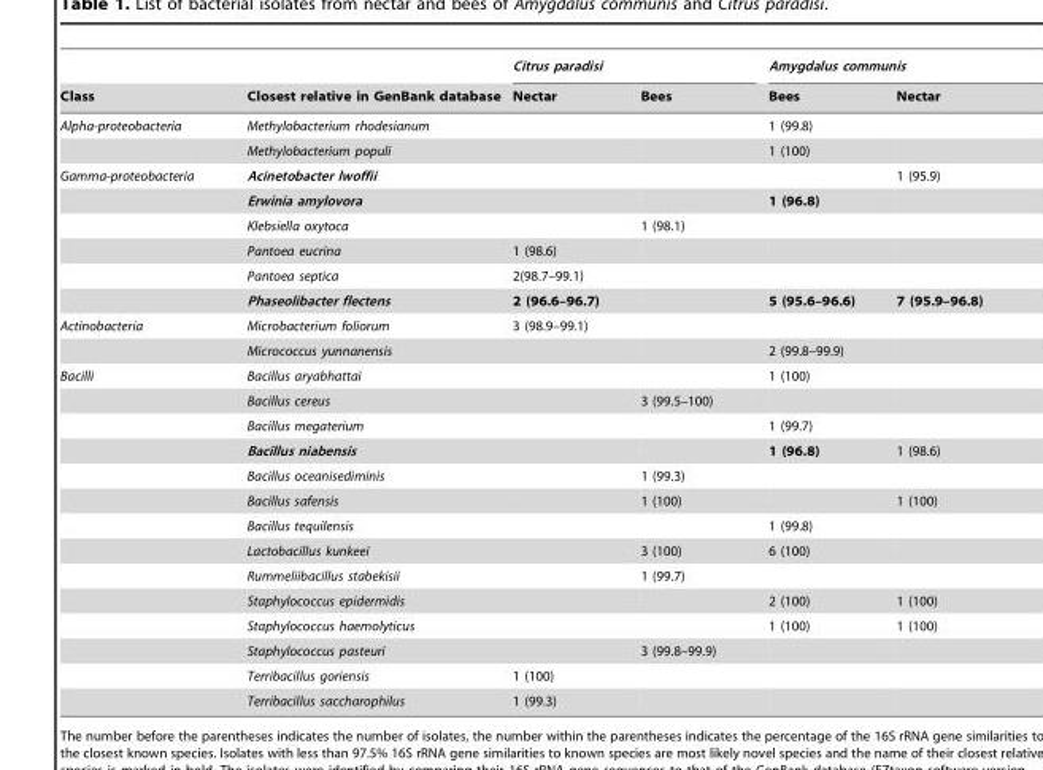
<table><thead><tr><td rowspan="2">Class</td><td rowspan="2">Closest relative in GenBank database</td><td colspan="2">Citrus paradisi</td><td colspan="2">Amygdalus communis</td></tr><tr><td>Nectar</td><td>Bees</td><td>Bees</td><td>Nectar</td></tr></thead><tbody><tr><td rowspan="2">Alpha-proteobacteria</td><td>Methylobacterium rhodesianum</td><td></td><td></td><td>1 (99.8)</td><td></td></tr><tr><td>Methylobacterium populi</td><td></td><td></td><td>1 (100)</td><td></td></tr><tr><td rowspan="6">Gamma-proteobacteria</td><td>Acinetobacter lwoffii</td><td></td><td></td><td></td><td>1 (95.9)</td></tr><tr><td>Erwinia amylovora</td><td></td><td></td><td>1 (96.8)</td><td></td></tr><tr><td>Klebsiella oxytoca</td><td></td><td>1 (98.1)</td><td></td><td></td></tr><tr><td>Pantoea eucrina</td><td>1 (98.6)</td><td></td><td></td><td></td></tr><tr><td>Pantoea septica</td><td>2(98.7–99.1)</td><td></td><td></td><td></td></tr><tr><td>Phaseolibacter flectens</td><td>2 (96.6–96.7)</td><td></td><td>5 (95.6–96.6)</td><td>7 (95.9–96.8)</td></tr><tr><td rowspan="2">Actinobacteria</td><td>Microbacterium foliorum</td><td>3 (98.9–99.1)</td><td></td><td></td><td></td></tr><tr><td>Micrococcus yunnanensis</td><td></td><td></td><td>2 (99.8–99.9)</td><td></td></tr><tr><td rowspan="14">Bacilli</td><td>Bacillus aryabhattai</td><td></td><td></td><td>1 (100)</td><td></td></tr><tr><td>Bacillus cereus</td><td></td><td>3 (99.5–100)</td><td></td><td></td></tr><tr><td>Bacillus megaterium</td><td></td><td></td><td>1 (99.7)</td><td></td></tr><tr><td>Bacillus niabensis</td><td></td><td></td><td>1 (96.8)</td><td>1 (98.6)</td></tr><tr><td>Bacillus oceanisediminis</td><td></td><td>1 (99.3)</td><td></td><td></td></tr><tr><td>Bacillus safensis</td><td></td><td>1 (100)</td><td></td><td>1 (100)</td></tr><tr><td>Bacillus tequilensis</td><td></td><td></td><td>1 (99.8)</td><td></td></tr><tr><td>Lactobacillus kunkeei</td><td></td><td>3 (100)</td><td>6 (100)</td><td></td></tr><tr><td>Rummeliibacillus stabekisii</td><td></td><td>1 (99.7)</td><td></td><td></td></tr><tr><td>Staphylococcus epidermidis</td><td></td><td></td><td>2 (100)</td><td>1 (100)</td></tr><tr><td>Staphylococcus haemolyticus</td><td></td><td></td><td>1 (100)</td><td>1 (100)</td></tr><tr><td>Staphylococcus pasteuri</td><td></td><td>3 (99.8–99.9)</td><td></td><td></td></tr><tr><td>Terribacillus goriensis</td><td>1 (100)</td><td></td><td></td><td></td></tr><tr><td>Terribacillus saccharophilus</td><td>1 (99.3)</td><td></td><td></td><td></td></tr></tbody></table>